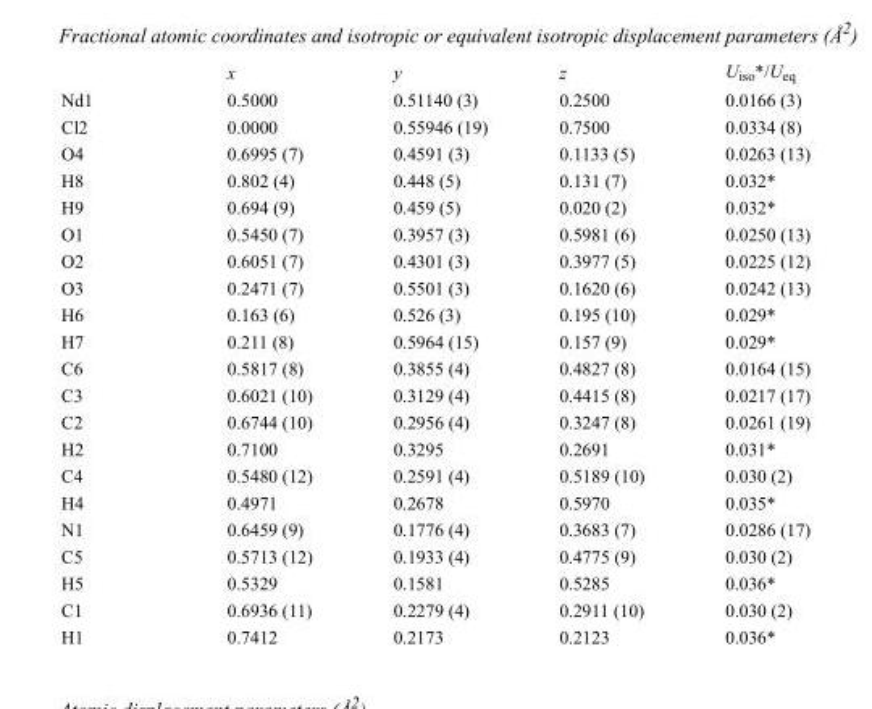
<table><thead><tr><td></td><td>x</td><td>y</td><td>z</td><td>U<sub>iso</sub>*/U<sub>eq</sub></td></tr></thead><tbody><tr><td>Nd1</td><td>0.5000</td><td>0.51140 (3)</td><td>0.2500</td><td>0.0166 (3)</td></tr><tr><td>Cl2</td><td>0.0000</td><td>0.55946 (19)</td><td>0.7500</td><td>0.0334 (8)</td></tr><tr><td>O4</td><td>0.6995 (7)</td><td>0.4591 (3)</td><td>0.1133 (5)</td><td>0.0263 (13)</td></tr><tr><td>H8</td><td>0.802 (4)</td><td>0.448 (5)</td><td>0.131 (7)</td><td>0.032*</td></tr><tr><td>H9</td><td>0.694 (9)</td><td>0.459 (5)</td><td>0.020 (2)</td><td>0.032*</td></tr><tr><td>O1</td><td>0.5450 (7)</td><td>0.3957 (3)</td><td>0.5981 (6)</td><td>0.0250 (13)</td></tr><tr><td>O2</td><td>0.6051 (7)</td><td>0.4301 (3)</td><td>0.3977 (5)</td><td>0.0225 (12)</td></tr><tr><td>O3</td><td>0.2471 (7)</td><td>0.5501 (3)</td><td>0.1620 (6)</td><td>0.0242 (13)</td></tr><tr><td>H6</td><td>0.163 (6)</td><td>0.526 (3)</td><td>0.195 (10)</td><td>0.029*</td></tr><tr><td>H7</td><td>0.211 (8)</td><td>0.5964 (15)</td><td>0.157 (9)</td><td>0.029*</td></tr><tr><td>C6</td><td>0.5817 (8)</td><td>0.3855 (4)</td><td>0.4827 (8)</td><td>0.0164 (15)</td></tr><tr><td>C3</td><td>0.6021 (10)</td><td>0.3129 (4)</td><td>0.4415 (8)</td><td>0.0217 (17)</td></tr><tr><td>C2</td><td>0.6744 (10)</td><td>0.2956 (4)</td><td>0.3247 (8)</td><td>0.0261 (19)</td></tr><tr><td>H2</td><td>0.7100</td><td>0.3295</td><td>0.2691</td><td>0.031*</td></tr><tr><td>C4</td><td>0.5480 (12)</td><td>0.2591 (4)</td><td>0.5189 (10)</td><td>0.030 (2)</td></tr><tr><td>H4</td><td>0.4971</td><td>0.2678</td><td>0.5970</td><td>0.035*</td></tr><tr><td>N1</td><td>0.6459 (9)</td><td>0.1776 (4)</td><td>0.3683 (7)</td><td>0.0286 (17)</td></tr><tr><td>C5</td><td>0.5713 (12)</td><td>0.1933 (4)</td><td>0.4775 (9)</td><td>0.030 (2)</td></tr><tr><td>H5</td><td>0.5329</td><td>0.1581</td><td>0.5285</td><td>0.036*</td></tr><tr><td>C1</td><td>0.6936 (11)</td><td>0.2279 (4)</td><td>0.2911 (10)</td><td>0.030 (2)</td></tr><tr><td>H1</td><td>0.7412</td><td>0.2173</td><td>0.2123</td><td>0.036*</td></tr></tbody></table>